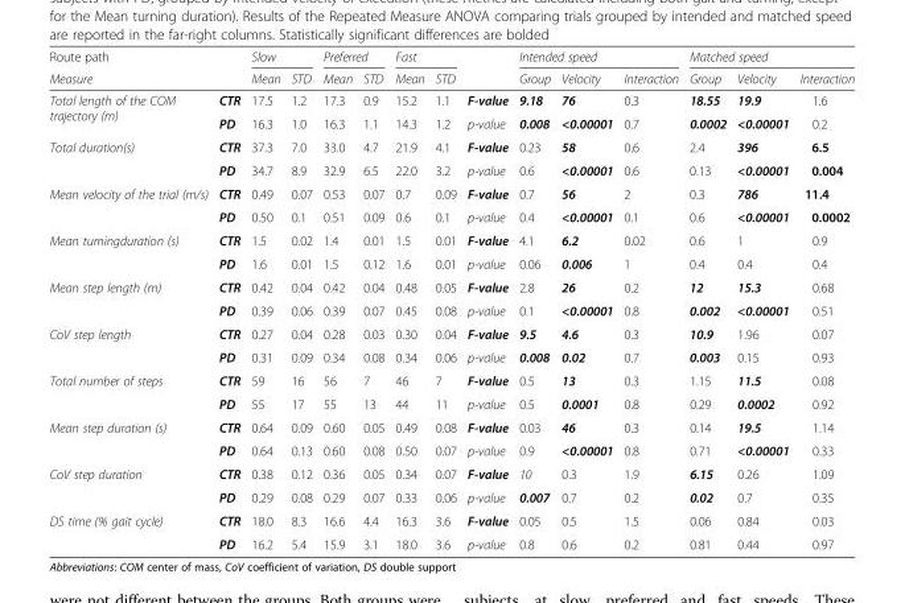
<table><thead><tr><td rowspan="2">Route path Measure</td><td rowspan="2"></td><td colspan="2">Slow</td><td colspan="2">Preferred</td><td colspan="2">Fast</td><td rowspan="2"></td><td colspan="3">Intended speed</td><td colspan="3">Matched speed</td></tr><tr><td>Mean</td><td>STD</td><td>Mean</td><td>STD</td><td>Mean</td><td>STD</td><td>Group</td><td>Velocity</td><td>Interaction</td><td>Group</td><td>Velocity</td><td>Interaction</td></tr></thead><tbody><tr><td rowspan="2">Total length of the COM trajectory (m)</td><td>CTR</td><td>17.5</td><td>1.2</td><td>17.3</td><td>0.9</td><td>15.2</td><td>1.1</td><td>F-value</td><td>9.18</td><td>76</td><td>0.3</td><td>18.55</td><td>19.9</td><td>1.6</td></tr><tr><td>PD</td><td>16.3</td><td>1.0</td><td>16.3</td><td>1.1</td><td>14.3</td><td>1.2</td><td>p-value</td><td>0.008</td><td>&lt;0.00001</td><td>0.7</td><td>0.0002</td><td>&lt;0.00001</td><td>0.2</td></tr><tr><td rowspan="2">Total duration(s)</td><td>CTR</td><td>37.3</td><td>7.0</td><td>33.0</td><td>4.7</td><td>21.9</td><td>4.1</td><td>F-value</td><td>0.23</td><td>58</td><td>0.6</td><td>2.4</td><td>396</td><td>6.5</td></tr><tr><td>PD</td><td>34.7</td><td>8.9</td><td>32.9</td><td>6.5</td><td>22.0</td><td>3.2</td><td>p-value</td><td>0.6</td><td>&lt;0.00001</td><td>0.6</td><td>0.13</td><td>&lt;0.00001</td><td>0.004</td></tr><tr><td rowspan="2">Mean velocity of the trial (m/s)</td><td>CTR</td><td>0.49</td><td>0.07</td><td>0.53</td><td>0.07</td><td>0.7</td><td>0.09</td><td>F-value</td><td>0.7</td><td>56</td><td>2</td><td>0.3</td><td>786</td><td>11.4</td></tr><tr><td>PD</td><td>0.50</td><td>0.1</td><td>0.51</td><td>0.09</td><td>0.6</td><td>0.1</td><td>p-value</td><td>0.4</td><td>&lt;0.00001</td><td>0.1</td><td>0.6</td><td>&lt;0.00001</td><td>0.0002</td></tr><tr><td rowspan="2">Mean turningduration (s)</td><td>CTR</td><td>1.5</td><td>0.02</td><td>1.4</td><td>0.01</td><td>1.5</td><td>0.01</td><td>F-value</td><td>4.1</td><td>6.2</td><td>0.02</td><td>0.6</td><td>1</td><td>0.9</td></tr><tr><td>PD</td><td>1.6</td><td>0.01</td><td>1.5</td><td>0.12</td><td>1.6</td><td>0.01</td><td>p-value</td><td>0.06</td><td>0.006</td><td>1</td><td>0.4</td><td>0.4</td><td>0.4</td></tr><tr><td rowspan="2">Mean step length (m)</td><td>CTR</td><td>0.42</td><td>0.04</td><td>0.42</td><td>0.04</td><td>0.48</td><td>0.05</td><td>F-value</td><td>2.8</td><td>26</td><td>0.2</td><td>12</td><td>15.3</td><td>0.68</td></tr><tr><td>PD</td><td>0.39</td><td>0.06</td><td>0.39</td><td>0.07</td><td>0.45</td><td>0.08</td><td>p-value</td><td>0.1</td><td>&lt;0.00001</td><td>0.8</td><td>0.002</td><td>&lt;0.00001</td><td>0.51</td></tr><tr><td rowspan="2">CoV step length</td><td>CTR</td><td>0.27</td><td>0.04</td><td>0.28</td><td>0.03</td><td>0.30</td><td>0.04</td><td>F-value</td><td>9.5</td><td>4.6</td><td>0.3</td><td>10.9</td><td>1.96</td><td>0.07</td></tr><tr><td>PD</td><td>0.31</td><td>0.09</td><td>0.34</td><td>0.08</td><td>0.34</td><td>0.06</td><td>p-value</td><td>0.008</td><td>0.02</td><td>0.7</td><td>0.003</td><td>0.15</td><td>0.93</td></tr><tr><td rowspan="2">Total number of steps</td><td>CTR</td><td>59</td><td>16</td><td>56</td><td>7</td><td>46</td><td>7</td><td>F-value</td><td>0.5</td><td>13</td><td>0.3</td><td>1.15</td><td>11.5</td><td>0.08</td></tr><tr><td>PD</td><td>55</td><td>17</td><td>55</td><td>13</td><td>44</td><td>11</td><td>p-value</td><td>0.5</td><td>0.0001</td><td>0.8</td><td>0.29</td><td>0.0002</td><td>0.92</td></tr><tr><td rowspan="2">Mean step duration (s)</td><td>CTR</td><td>0.64</td><td>0.09</td><td>0.60</td><td>0.05</td><td>0.49</td><td>0.08</td><td>F-value</td><td>0.03</td><td>46</td><td>0.3</td><td>0.14</td><td>19.5</td><td>1.14</td></tr><tr><td>PD</td><td>0.64</td><td>0.13</td><td>0.60</td><td>0.08</td><td>0.50</td><td>0.07</td><td>p-value</td><td>0.9</td><td>&lt;0.00001</td><td>0.8</td><td>0.71</td><td>&lt;0.00001</td><td>0.33</td></tr><tr><td rowspan="2">CoV step duration</td><td>CTR</td><td>0.38</td><td>0.12</td><td>0.36</td><td>0.05</td><td>0.34</td><td>0.07</td><td>F-value</td><td>10</td><td>0.3</td><td>1.9</td><td>6.15</td><td>0.26</td><td>1.09</td></tr><tr><td>PD</td><td>0.29</td><td>0.08</td><td>0.29</td><td>0.07</td><td>0.33</td><td>0.06</td><td>p-value</td><td>0.007</td><td>0.7</td><td>0.2</td><td>0.02</td><td>0.7</td><td>0.35</td></tr><tr><td rowspan="2">DS time (% gait cycle)</td><td>CTR</td><td>18.0</td><td>8.3</td><td>16.6</td><td>4.4</td><td>16.3</td><td>3.6</td><td>F-value</td><td>0.05</td><td>0.5</td><td>1.5</td><td>0.06</td><td>0.84</td><td>0.03</td></tr><tr><td>PD</td><td>16.2</td><td>5.4</td><td>15.9</td><td>3.1</td><td>18.0</td><td>3.6</td><td>p-value</td><td>0.8</td><td>0.6</td><td>0.2</td><td>0.81</td><td>0.44</td><td>0.97</td></tr></tbody></table>